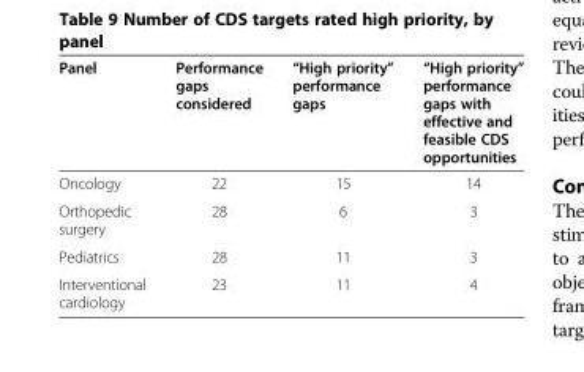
<table><thead><tr><td>Panel</td><td>Performance gaps considered</td><td>“High priority” performance gaps</td><td>“High priority” performance gaps with effective and feasible CDS opportunities</td></tr></thead><tbody><tr><td>Oncology</td><td>22</td><td>15</td><td>14</td></tr><tr><td>Orthopedic surgery</td><td>28</td><td>6</td><td>3</td></tr><tr><td>Pediatrics</td><td>28</td><td>11</td><td>3</td></tr><tr><td>Interventional cardiology</td><td>23</td><td>11</td><td>4</td></tr></tbody></table>